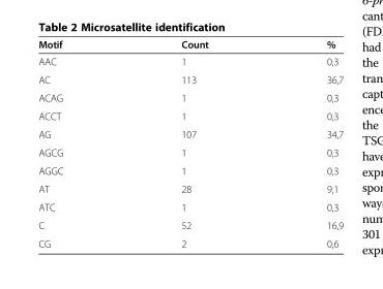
<table><thead><tr><td>Motif</td><td>Count</td><td>%</td></tr></thead><tbody><tr><td>AAC</td><td>1</td><td>0,3</td></tr><tr><td>AC</td><td>113</td><td>36,7</td></tr><tr><td>ACAG</td><td>1</td><td>0,3</td></tr><tr><td>ACCT</td><td>1</td><td>0,3</td></tr><tr><td>AG</td><td>107</td><td>34,7</td></tr><tr><td>AGCG</td><td>1</td><td>0,3</td></tr><tr><td>AGGC</td><td>1</td><td>0,3</td></tr><tr><td>AT</td><td>28</td><td>9,1</td></tr><tr><td>ATC</td><td>1</td><td>0,3</td></tr><tr><td>C</td><td>52</td><td>16,9</td></tr><tr><td>CG</td><td>2</td><td>0,6</td></tr></tbody></table>